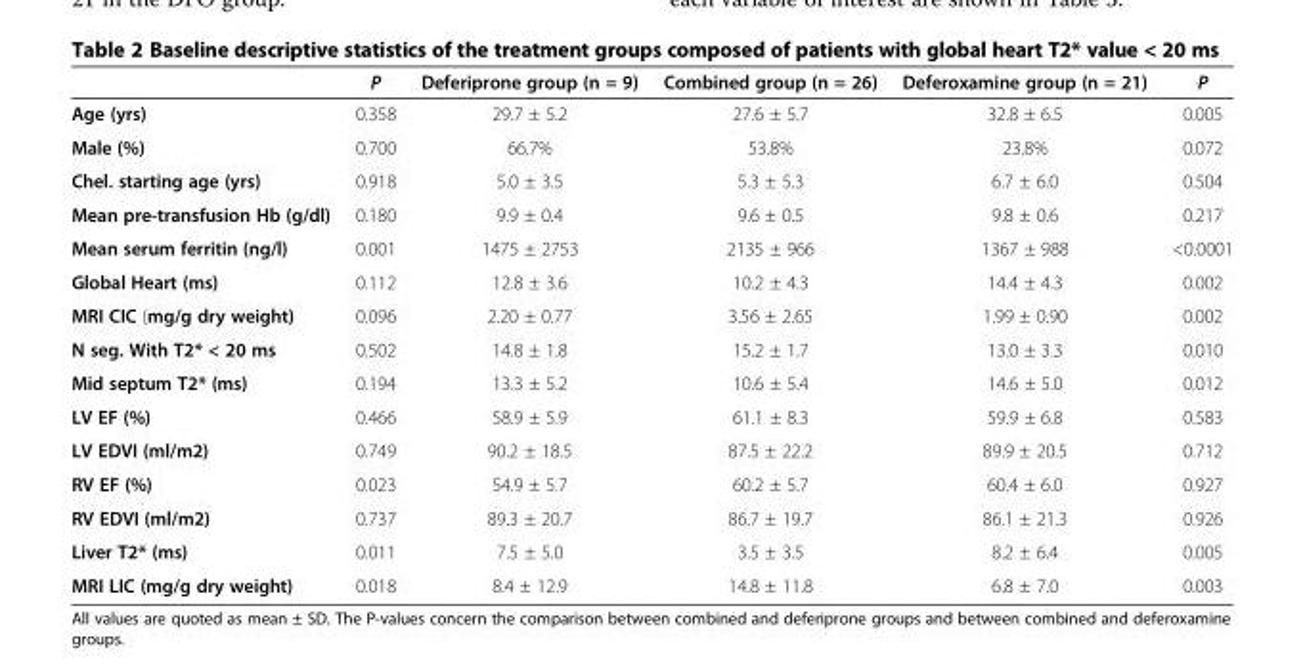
<table><thead><tr><td></td><td>P</td><td>Deferiprone group (n = 9)</td><td>Combined group (n = 26)</td><td>Deferoxamine group (n = 21)</td><td>P</td></tr></thead><tbody><tr><td>Age (yrs)</td><td>0.358</td><td>29.7 ± 5.2</td><td>27.6 ± 5.7</td><td>32.8 ± 6.5</td><td>0.005</td></tr><tr><td>Male (%)</td><td>0.700</td><td>66.7%</td><td>53.8%</td><td>23.8%</td><td>0.072</td></tr><tr><td>Chel. starting age (yrs)</td><td>0.918</td><td>5.0 ± 3.5</td><td>5.3 ± 5.3</td><td>6.7 ± 6.0</td><td>0.504</td></tr><tr><td>Mean pre-transfusion Hb (g/dl)</td><td>0.180</td><td>9.9 ± 0.4</td><td>9.6 ± 0.5</td><td>9.8 ± 0.6</td><td>0.217</td></tr><tr><td>Mean serum ferritin (ng/l)</td><td>0.001</td><td>1475 ± 2753</td><td>2135 ± 966</td><td>1367 ± 988</td><td>&lt;0.0001</td></tr><tr><td>Global Heart (ms)</td><td>0.112</td><td>12.8 ± 3.6</td><td>10.2 ± 4.3</td><td>14.4 ± 4.3</td><td>0.002</td></tr><tr><td>MRI CIC (mg/g dry weight)</td><td>0.096</td><td>2.20 ± 0.77</td><td>3.56 ± 2.65</td><td>1.99 ± 0.90</td><td>0.002</td></tr><tr><td>N seg. With T2* &lt; 20 ms</td><td>0.502</td><td>14.8 ± 1.8</td><td>15.2 ± 1.7</td><td>13.0 ± 3.3</td><td>0.010</td></tr><tr><td>Mid septum T2* (ms)</td><td>0.194</td><td>13.3 ± 5.2</td><td>10.6 ± 5.4</td><td>14.6 ± 5.0</td><td>0.012</td></tr><tr><td>LV EF (%)</td><td>0.466</td><td>58.9 ± 5.9</td><td>61.1 ± 8.3</td><td>59.9 ± 6.8</td><td>0.583</td></tr><tr><td>LV EDVI (ml/m2)</td><td>0.749</td><td>90.2 ± 18.5</td><td>87.5 ± 22.2</td><td>89.9 ± 20.5</td><td>0.712</td></tr><tr><td>RV EF (%)</td><td>0.023</td><td>54.9 ± 5.7</td><td>60.2 ± 5.7</td><td>60.4 ± 6.0</td><td>0.927</td></tr><tr><td>RV EDVI (ml/m2)</td><td>0.737</td><td>89.3 ± 20.7</td><td>86.7 ± 19.7</td><td>86.1 ± 21.3</td><td>0.926</td></tr><tr><td>Liver T2* (ms)</td><td>0.011</td><td>7.5 ± 5.0</td><td>3.5 ± 3.5</td><td>8.2 ± 6.4</td><td>0.005</td></tr><tr><td>MRI LIC (mg/g dry weight)</td><td>0.018</td><td>8.4 ± 12.9</td><td>14.8 ± 11.8</td><td>6.8 ± 7.0</td><td>0.003</td></tr></tbody></table>